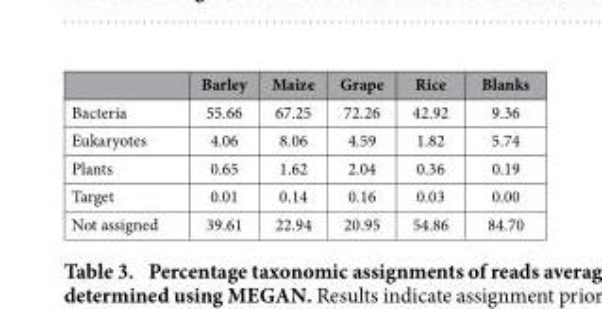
<table><thead><tr><td></td><td>Barley</td><td>Maize</td><td>Grape</td><td>Rice</td><td>Blanks</td></tr></thead><tbody><tr><td>Bacteria</td><td>55.66</td><td>67.25</td><td>72.26</td><td>42.92</td><td>9.36</td></tr><tr><td>Eukaryotes</td><td>4.06</td><td>8.06</td><td>4.59</td><td>1.82</td><td>5.74</td></tr><tr><td>Plants</td><td>0.65</td><td>1.62</td><td>2.04</td><td>0.36</td><td>0.19</td></tr><tr><td>Target</td><td>0.01</td><td>0.14</td><td>0.16</td><td>0.03</td><td>0.00</td></tr><tr><td>Not assigned</td><td>39.61</td><td>22.94</td><td>20.95</td><td>54.86</td><td>84.70</td></tr></tbody></table>